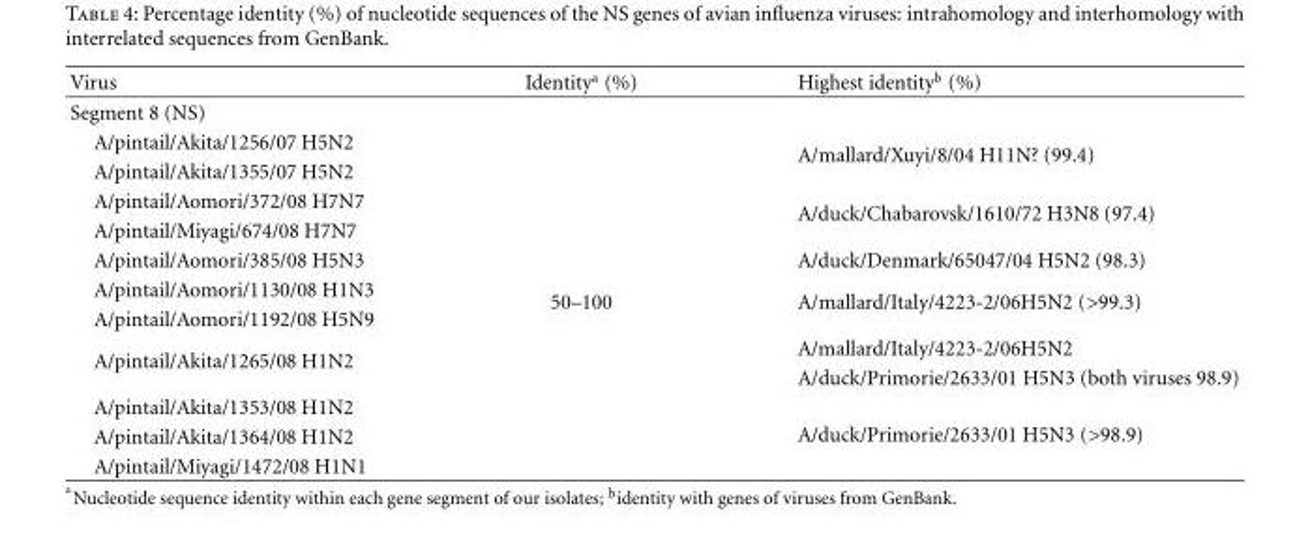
<table><thead><tr><td>Virus</td><td>Identity<sup>a</sup> (%)</td><td>Highest identity<sup>b</sup> (%)</td></tr></thead><tbody><tr><td colspan="3">Segment 8 (NS)</td></tr><tr><td colspan="2">A/pintail/Akita/1256/07 H5N2</td><td rowspan="2">A/mallard/Xuyi/8/04 H11N? (99.4)</td></tr><tr><td colspan="2">A/pintail/Akita/1355/07 H5N2</td></tr><tr><td colspan="2">A/pintail/Aomori/372/08 H7N7</td><td rowspan="2">A/duck/Chabarovsk/1610/72 H3N8 (97.4)</td></tr><tr><td colspan="2">A/pintail/Miyagi/674/08 H7N7</td></tr><tr><td>A/pintail/Aomori/385/08 H5N3</td><td></td><td>A/duck/Denmark/65047/04 H5N2 (98.3)</td></tr><tr><td>A/pintail/Aomori/1130/08 H1N3</td><td rowspan="2">50–100</td><td rowspan="2">A/mallard/Italy/4223-2/06H5N2 (&gt;99.3)</td></tr><tr><td>A/pintail/Aomori/1192/08 H5N9</td></tr><tr><td rowspan="2">A/pintail/Akita/1265/08 H1N2</td><td></td><td>A/mallard/Italy/4223-2/06H5N2</td></tr><tr><td></td><td>A/duck/Primorie/2633/01 H5N3 (both viruses 98.9)</td></tr><tr><td colspan="2">A/pintail/Akita/1353/08 H1N2</td><td rowspan="3">A/duck/Primorie/2633/01 H5N3 (&gt;98.9)</td></tr><tr><td colspan="2">A/pintail/Akita/1364/08 H1N2</td></tr><tr><td>A/pintail/Miyagi/1472/08 H1N1</td><td></td></tr></tbody></table>